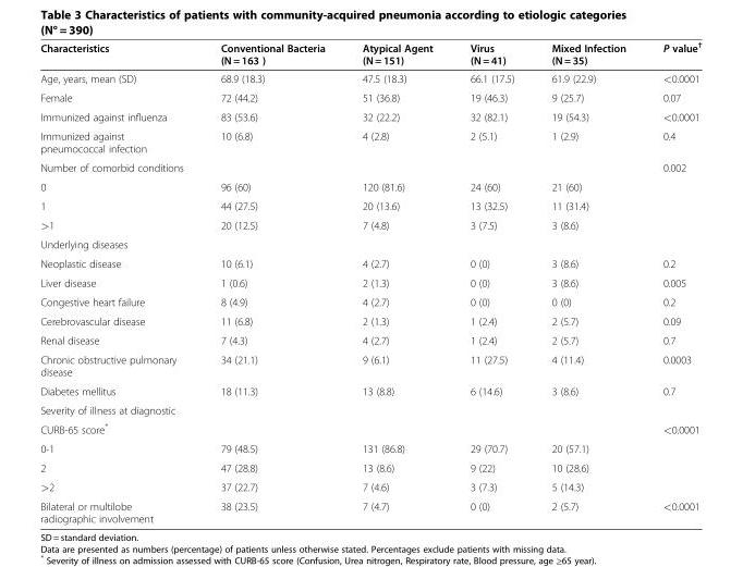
<table><thead><tr><td>Characteristics</td><td>Conventional Bacteria (N = 163 )</td><td>Atypical Agent (N = 151)</td><td>Virus (N = 41)</td><td>Mixed Infection (N = 35)</td><td>P value<sup>†</sup></td></tr></thead><tbody><tr><td>Age, years, mean (SD)</td><td>68.9 (18.3)</td><td>47.5 (18.3)</td><td>66.1 (17.5)</td><td>61.9 (22.9)</td><td>&lt;0.0001</td></tr><tr><td>Female</td><td>72 (44.2)</td><td>51 (36.8)</td><td>19 (46.3)</td><td>9 (25.7)</td><td>0.07</td></tr><tr><td>Immunized against influenza</td><td>83 (53.6)</td><td>32 (22.2)</td><td>32 (82.1)</td><td>19 (54.3)</td><td>&lt;0.0001</td></tr><tr><td>Immunized against pneumococcal infection</td><td>10 (6.8)</td><td>4 (2.8)</td><td>2 (5.1)</td><td>1 (2.9)</td><td>0.4</td></tr><tr><td>Number of comorbid conditions</td><td></td><td></td><td></td><td></td><td>0.002</td></tr><tr><td>0</td><td>96 (60)</td><td>120 (81.6)</td><td>24 (60)</td><td>21 (60)</td><td></td></tr><tr><td>1</td><td>44 (27.5)</td><td>20 (13.6)</td><td>13 (32.5)</td><td>11 (31.4)</td><td></td></tr><tr><td>&gt;1</td><td>20 (12.5)</td><td>7 (4.8)</td><td>3 (7.5)</td><td>3 (8.6)</td><td></td></tr><tr><td colspan="6">Underlying diseases</td></tr><tr><td>Neoplastic disease</td><td>10 (6.1)</td><td>4 (2.7)</td><td>0 (0)</td><td>3 (8.6)</td><td>0.2</td></tr><tr><td>Liver disease</td><td>1 (0.6)</td><td>2 (1.3)</td><td>0 (0)</td><td>3 (8.6)</td><td>0.005</td></tr><tr><td>Congestive heart failure</td><td>8 (4.9)</td><td>4 (2.7)</td><td>0 (0)</td><td>0 (0)</td><td>0.2</td></tr><tr><td>Cerebrovascular disease</td><td>11 (6.8)</td><td>2 (1.3)</td><td>1 (2.4)</td><td>2 (5.7)</td><td>0.09</td></tr><tr><td>Renal disease</td><td>7 (4.3)</td><td>4 (2.7)</td><td>1 (2.4)</td><td>2 (5.7)</td><td>0.7</td></tr><tr><td>Chronic obstructive pulmonary disease</td><td>34 (21.1)</td><td>9 (6.1)</td><td>11 (27.5)</td><td>4 (11.4)</td><td>0.0003</td></tr><tr><td>Diabetes mellitus</td><td>18 (11.3)</td><td>13 (8.8)</td><td>6 (14.6)</td><td>3 (8.6)</td><td>0.7</td></tr><tr><td colspan="6">Severity of illness at diagnostic</td></tr><tr><td>CURB-65 score*</td><td></td><td></td><td></td><td></td><td>&lt;0.0001</td></tr><tr><td>0-1</td><td>79 (48.5)</td><td>131 (86.8)</td><td>29 (70.7)</td><td>20 (57.1)</td><td></td></tr><tr><td>2</td><td>47 (28.8)</td><td>13 (8.6)</td><td>9 (22)</td><td>10 (28.6)</td><td></td></tr><tr><td>&gt;2</td><td>37 (22.7)</td><td>7 (4.6)</td><td>3 (7.3)</td><td>5 (14.3)</td><td></td></tr><tr><td>Bilateral or multilobe radiographic involvement</td><td>38 (23.5)</td><td>7 (4.7)</td><td>0 (0)</td><td>2 (5.7)</td><td>&lt;0.0001</td></tr></tbody></table>